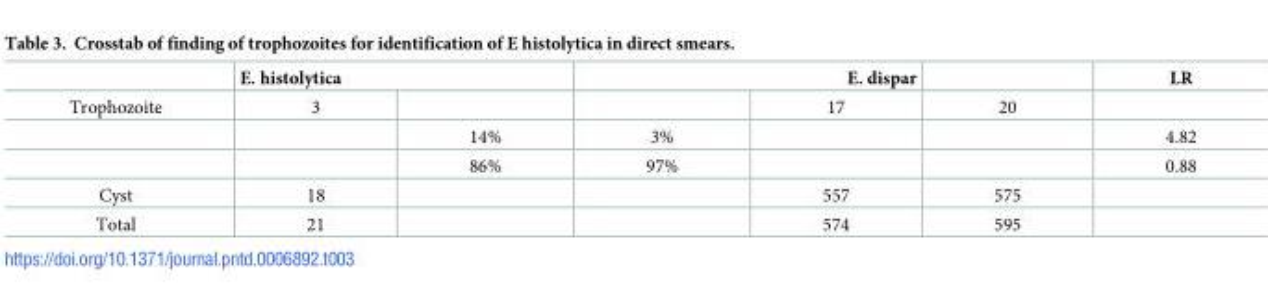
<table><thead><tr><td rowspan="2">Trophozoite</td><td colspan="2">E. histolytica</td><td colspan="2">E. dispar</td><td rowspan="2">20</td><td rowspan="2">LR</td></tr><tr><td>3</td><td></td><td></td><td>17</td></tr></thead><tbody><tr><td></td><td></td><td>14%</td><td>3%</td><td></td><td></td><td>4.82</td></tr><tr><td></td><td></td><td>86%</td><td>97%</td><td></td><td></td><td>0.88</td></tr><tr><td>Cyst</td><td>18</td><td></td><td></td><td>557</td><td>575</td><td></td></tr><tr><td>Total</td><td>21</td><td></td><td></td><td>574</td><td>595</td><td></td></tr></tbody></table>